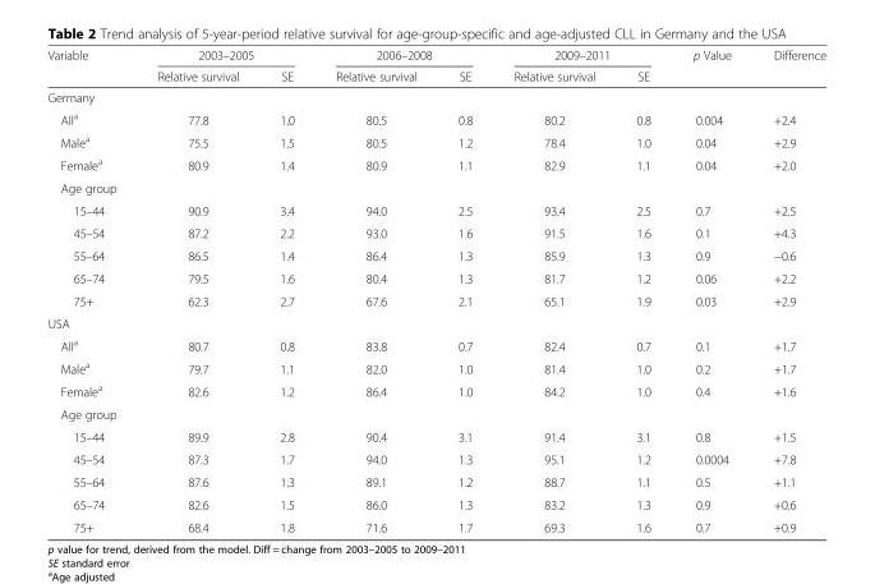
<table><thead><tr><td rowspan="2">Variable</td><td colspan="2">2003–2005</td><td colspan="2">2006–2008</td><td colspan="2">2009–2011</td><td rowspan="2">p Value</td><td rowspan="2">Difference</td></tr><tr><td>Relative survival</td><td>SE</td><td>Relative survival</td><td>SE</td><td>Relative survival</td><td>SE</td></tr></thead><tbody><tr><td colspan="9">Germany</td></tr><tr><td>All<sup>a</sup></td><td>77.8</td><td>1.0</td><td>80.5</td><td>0.8</td><td>80.2</td><td>0.8</td><td>0.004</td><td>+2.4</td></tr><tr><td>Male<sup>a</sup></td><td>75.5</td><td>1.5</td><td>80.5</td><td>1.2</td><td>78.4</td><td>1.0</td><td>0.04</td><td>+2.9</td></tr><tr><td>Female<sup>a</sup></td><td>80.9</td><td>1.4</td><td>80.9</td><td>1.1</td><td>82.9</td><td>1.1</td><td>0.04</td><td>+2.0</td></tr><tr><td colspan="9">Age group</td></tr><tr><td>15–44</td><td>90.9</td><td>3.4</td><td>94.0</td><td>2.5</td><td>93.4</td><td>2.5</td><td>0.7</td><td>+2.5</td></tr><tr><td>45–54</td><td>87.2</td><td>2.2</td><td>93.0</td><td>1.6</td><td>91.5</td><td>1.6</td><td>0.1</td><td>+4.3</td></tr><tr><td>55–64</td><td>86.5</td><td>1.4</td><td>86.4</td><td>1.3</td><td>85.9</td><td>1.3</td><td>0.9</td><td>−0.6</td></tr><tr><td>65–74</td><td>79.5</td><td>1.6</td><td>80.4</td><td>1.3</td><td>81.7</td><td>1.2</td><td>0.06</td><td>+2.2</td></tr><tr><td>75+</td><td>62.3</td><td>2.7</td><td>67.6</td><td>2.1</td><td>65.1</td><td>1.9</td><td>0.03</td><td>+2.9</td></tr><tr><td colspan="9">USA</td></tr><tr><td>All<sup>a</sup></td><td>80.7</td><td>0.8</td><td>83.8</td><td>0.7</td><td>82.4</td><td>0.7</td><td>0.1</td><td>+1.7</td></tr><tr><td>Male<sup>a</sup></td><td>79.7</td><td>1.1</td><td>82.0</td><td>1.0</td><td>81.4</td><td>1.0</td><td>0.2</td><td>+1.7</td></tr><tr><td>Female<sup>a</sup></td><td>82.6</td><td>1.2</td><td>86.4</td><td>1.0</td><td>84.2</td><td>1.0</td><td>0.4</td><td>+1.6</td></tr><tr><td colspan="9">Age group</td></tr><tr><td>15–44</td><td>89.9</td><td>2.8</td><td>90.4</td><td>3.1</td><td>91.4</td><td>3.1</td><td>0.8</td><td>+1.5</td></tr><tr><td>45–54</td><td>87.3</td><td>1.7</td><td>94.0</td><td>1.3</td><td>95.1</td><td>1.2</td><td>0.0004</td><td>+7.8</td></tr><tr><td>55–64</td><td>87.6</td><td>1.3</td><td>89.1</td><td>1.2</td><td>88.7</td><td>1.1</td><td>0.5</td><td>+1.1</td></tr><tr><td>65–74</td><td>82.6</td><td>1.5</td><td>86.0</td><td>1.3</td><td>83.2</td><td>1.3</td><td>0.9</td><td>+0.6</td></tr><tr><td>75+</td><td>68.4</td><td>1.8</td><td>71.6</td><td>1.7</td><td>69.3</td><td>1.6</td><td>0.7</td><td>+0.9</td></tr></tbody></table>